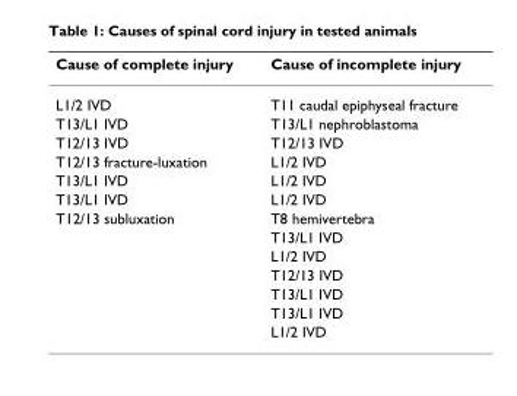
<table><thead><tr><td>Cause of complete injury</td><td>Cause of incomplete injury</td></tr></thead><tbody><tr><td>L1/2 IVD</td><td>T11 caudal epiphyseal fracture</td></tr><tr><td>T13/L1 IVD</td><td>T13/L1 nephroblastoma</td></tr><tr><td>T12/13 IVD</td><td>T12/13 IVD</td></tr><tr><td>T12/13 fracture-luxation</td><td>L1/2 IVD</td></tr><tr><td>T13/L1 IVD</td><td>L1/2 IVD</td></tr><tr><td>T13/L1 IVD</td><td>L1/2 IVD</td></tr><tr><td rowspan="7">T12/13 subluxation</td><td>T8 hemivertebra</td></tr><tr><td>T13/L1 IVD</td></tr><tr><td>L1/2 IVD</td></tr><tr><td>T12/13 IVD</td></tr><tr><td>T13/L1 IVD</td></tr><tr><td>T13/L1 IVD</td></tr><tr><td>L1/2 IVD</td></tr></tbody></table>